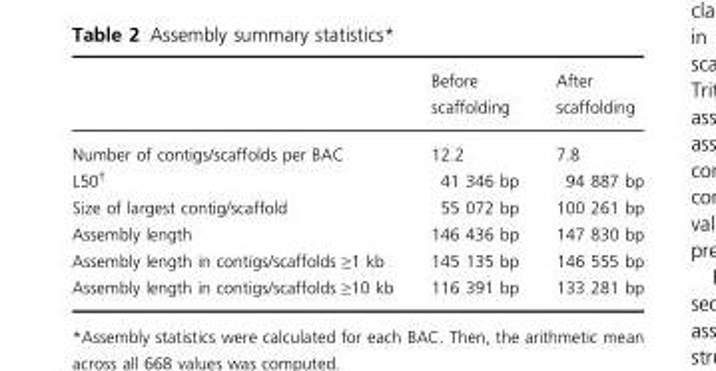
<table><thead><tr><td></td><td>Before scaffolding</td><td>After scaffolding</td></tr></thead><tbody><tr><td>Number of contigs/scaffolds per BAC</td><td>12.2</td><td>7.8</td></tr><tr><td>L50†</td><td>41 346 bp</td><td>94 887 bp</td></tr><tr><td>Size of largest contig/scaffold</td><td>55 072 bp</td><td>100 261 bp</td></tr><tr><td>Assembly length</td><td>146 436 bp</td><td>147 830 bp</td></tr><tr><td>Assembly length in contigs/scaffolds ≥1 kb</td><td>145 135 bp</td><td>146 555 bp</td></tr><tr><td>Assembly length in contigs/scaffolds ≥10 kb</td><td>116 391 bp</td><td>133 281 bp</td></tr></tbody></table>